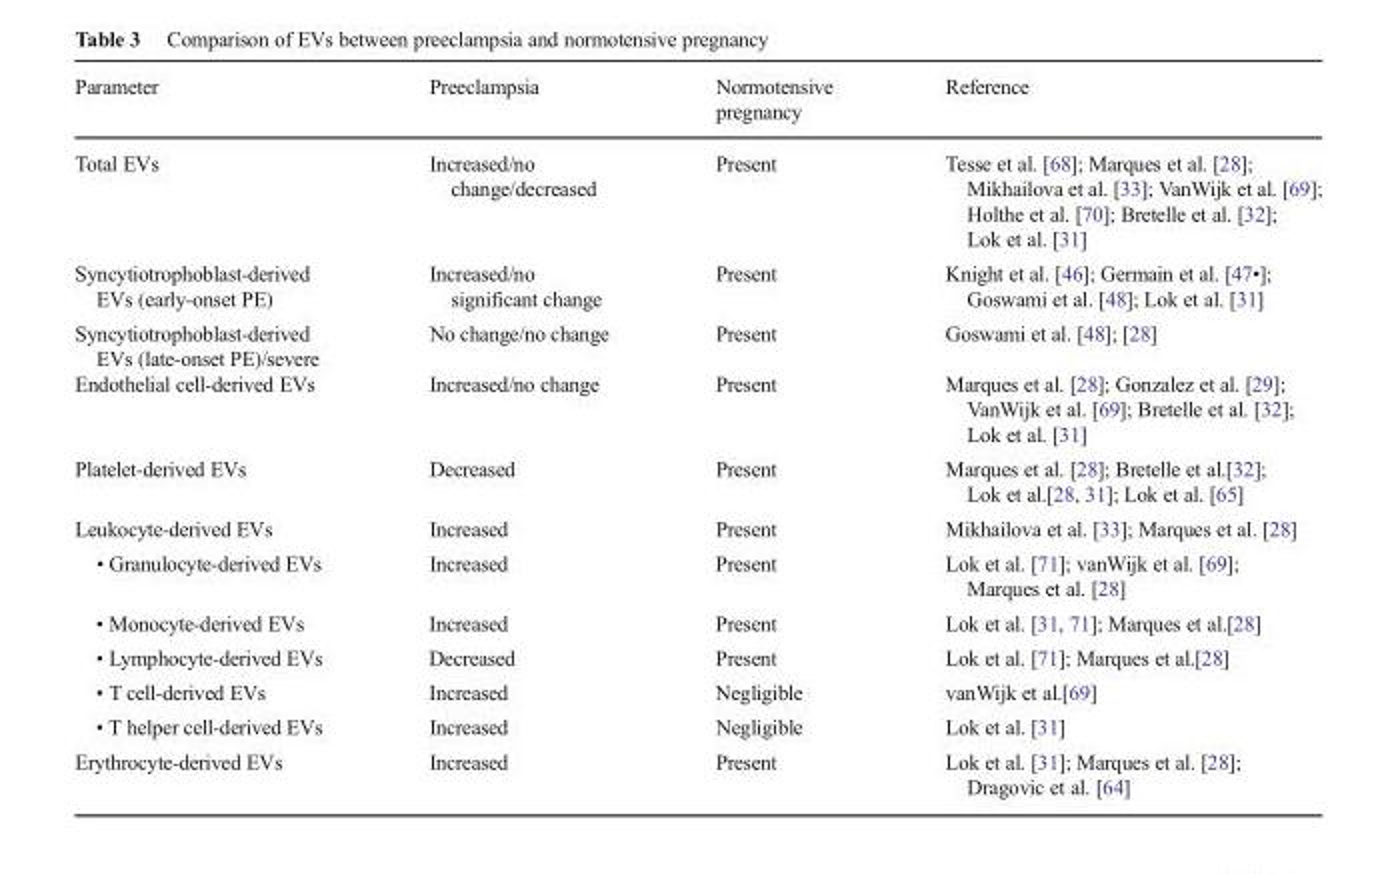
<table><thead><tr><td>Parameter</td><td>Preeclampsia</td><td>Normotensive pregnancy</td><td>Reference</td></tr></thead><tbody><tr><td>Total EVs</td><td>Increased/no change/decreased</td><td>Present</td><td>Tesse et al. [68]; Marques et al. [28]; Mikhailova et al. [33]; VanWijk et al. [69]; Holthe et al. [70]; Bretelle et al. [32]; Lok et al. [31]</td></tr><tr><td>Syncytiotrophoblast-derived EVs (early-onset PE)</td><td>Increased/no significant change</td><td>Present</td><td>Knight et al. [46]; Germain et al. [47•]; Goswami et al. [48]; Lok et al. [31]</td></tr><tr><td>Syncytiotrophoblast-derived EVs (late-onset PE)/severe</td><td>No change/no change</td><td>Present</td><td>Goswami et al. [48]; [28]</td></tr><tr><td>Endothelial cell-derived EVs</td><td>Increased/no change</td><td>Present</td><td>Marques et al. [28]; Gonzalez et al. [29]; VanWijk et al. [69]; Bretelle et al. [32]; Lok et al. [31]</td></tr><tr><td>Platelet-derived EVs</td><td>Decreased</td><td>Present</td><td>Marques et al. [28]; Bretelle et al.[32]; Lok et al.[28, 31]; Lok et al. [65]</td></tr><tr><td>Leukocyte-derived EVs</td><td>Increased</td><td>Present</td><td>Mikhailova et al. [33]; Marques et al. [28]</td></tr><tr><td>• Granulocyte-derived EVs</td><td>Increased</td><td>Present</td><td>Lok et al. [71]; vanWijk et al. [69]; Marques et al. [28]</td></tr><tr><td>• Monocyte-derived EVs</td><td>Increased</td><td>Present</td><td>Lok et al. [31, 71]; Marques et al.[28]</td></tr><tr><td>• Lymphocyte-derived EVs</td><td>Decreased</td><td>Present</td><td>Lok et al. [71]; Marques et al.[28]</td></tr><tr><td>• T cell-derived EVs</td><td>Increased</td><td>Negligible</td><td>vanWijk et al.[69]</td></tr><tr><td>• T helper cell-derived EVs</td><td>Increased</td><td>Negligible</td><td>Lok et al. [31]</td></tr><tr><td>Erythrocyte-derived EVs</td><td>Increased</td><td>Present</td><td>Lok et al. [31]; Marques et al. [28]; Dragovic et al. [64]</td></tr></tbody></table>